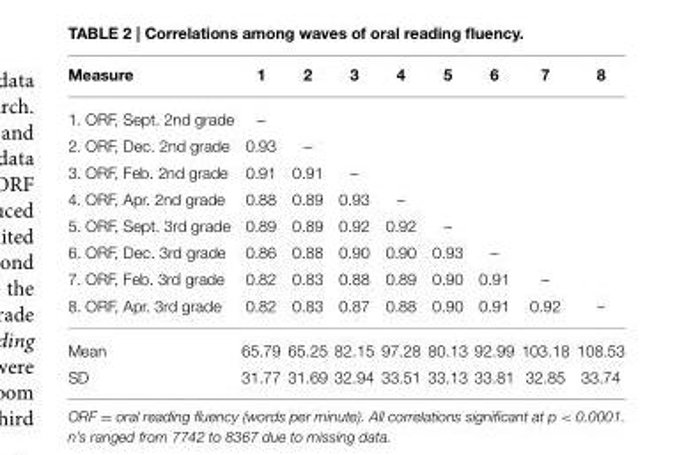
<table><thead><tr><td>Measure</td><td>1</td><td>2</td><td>3</td><td>4</td><td>5</td><td>6</td><td>7</td><td>8</td></tr></thead><tbody><tr><td>1. ORF, Sept. 2nd grade</td><td>–</td><td></td><td></td><td></td><td></td><td></td><td></td><td></td></tr><tr><td>2. ORF, Dec. 2nd grade</td><td>0.93</td><td>–</td><td></td><td></td><td></td><td></td><td></td><td></td></tr><tr><td>3. ORF, Feb. 2nd grade</td><td>0.91</td><td>0.91</td><td>–</td><td></td><td></td><td></td><td></td><td></td></tr><tr><td>4. ORF, Apr. 2nd grade</td><td>0.88</td><td>0.89</td><td>0.93</td><td>–</td><td></td><td></td><td></td><td></td></tr><tr><td>5. ORF, Sept. 3rd grade</td><td>0.89</td><td>0.89</td><td>0.92</td><td>0.92</td><td>–</td><td></td><td></td><td></td></tr><tr><td>6. ORF, Dec. 3rd grade</td><td>0.86</td><td>0.88</td><td>0.90</td><td>0.90</td><td>0.93</td><td>–</td><td></td><td></td></tr><tr><td>7. ORF, Feb. 3rd grade</td><td>0.82</td><td>0.83</td><td>0.88</td><td>0.89</td><td>0.90</td><td>0.91</td><td>–</td><td></td></tr><tr><td>8. ORF, Apr. 3rd grade</td><td>0.82</td><td>0.83</td><td>0.87</td><td>0.88</td><td>0.90</td><td>0.91</td><td>0.92</td><td>–</td></tr><tr><td>Mean</td><td>65.79</td><td>65.25</td><td>82.15</td><td>97.28</td><td>80.13</td><td>92.99</td><td>103.18</td><td>108.53</td></tr><tr><td>SD</td><td>31.77</td><td>31.69</td><td>32.94</td><td>33.51</td><td>33.13</td><td>33.81</td><td>32.85</td><td>33.74</td></tr></tbody></table>